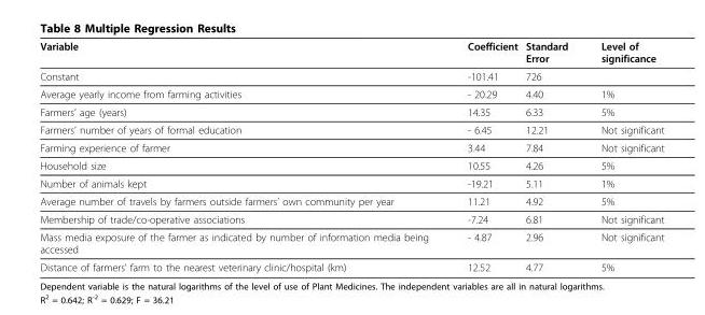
<table><thead><tr><td>Variable</td><td>Coefficient</td><td>Standard Error</td><td>Level of significance</td></tr></thead><tbody><tr><td>Constant</td><td>-101.41</td><td>726</td><td></td></tr><tr><td>Average yearly income from farming activities</td><td>- 20.29</td><td>4.40</td><td>1%</td></tr><tr><td>Farmers’ age (years)</td><td>14.35</td><td>6.33</td><td>5%</td></tr><tr><td>Farmers’ number of years of formal education</td><td>- 6.45</td><td>12.21</td><td>Not significant</td></tr><tr><td>Farming experience of farmer</td><td>3.44</td><td>7.84</td><td>Not significant</td></tr><tr><td>Household size</td><td>10.55</td><td>4.26</td><td>5%</td></tr><tr><td>Number of animals kept</td><td>-19.21</td><td>5.11</td><td>1%</td></tr><tr><td>Average number of travels by farmers outside farmers’ own community per year</td><td>11.21</td><td>4.92</td><td>5%</td></tr><tr><td>Membership of trade/co-operative associations</td><td>-7.24</td><td>6.81</td><td>Not significant</td></tr><tr><td>Mass media exposure of the farmer as indicated by number of information media being accessed</td><td>- 4.87</td><td>2.96</td><td>Not significant</td></tr><tr><td>Distance of farmers’ farm to the nearest veterinary clinic/hospital (km)</td><td>12.52</td><td>4.77</td><td>5%</td></tr></tbody></table>